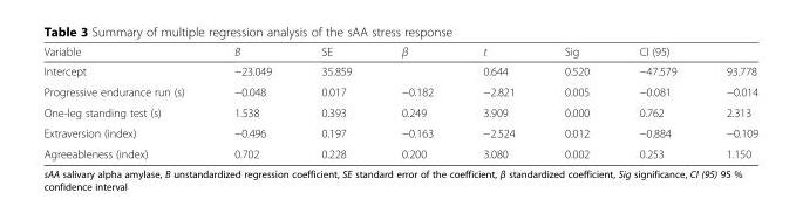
<table><thead><tr><td rowspan="2">Variable Intercept</td><td rowspan="2">B −23.049</td><td rowspan="2">SE 35.859</td><td rowspan="2">β</td><td rowspan="2">t 0.644</td><td rowspan="2">Sig 0.520</td><td colspan="2">CI (95)</td></tr><tr><td>−47.579</td><td>93.778</td></tr></thead><tbody><tr><td>Progressive endurance run (s)</td><td>−0.048</td><td>0.017</td><td>−0.182</td><td>−2.821</td><td>0.005</td><td>−0.081</td><td>−0.014</td></tr><tr><td>One-leg standing test (s)</td><td>1.538</td><td>0.393</td><td>0.249</td><td>3.909</td><td>0.000</td><td>0.762</td><td>2.313</td></tr><tr><td>Extraversion (index)</td><td>−0.496</td><td>0.197</td><td>−0.163</td><td>−2.524</td><td>0.012</td><td>−0.884</td><td>−0.109</td></tr><tr><td>Agreeableness (index)</td><td>0.702</td><td>0.228</td><td>0.200</td><td>3.080</td><td>0.002</td><td>0.253</td><td>1.150</td></tr></tbody></table>